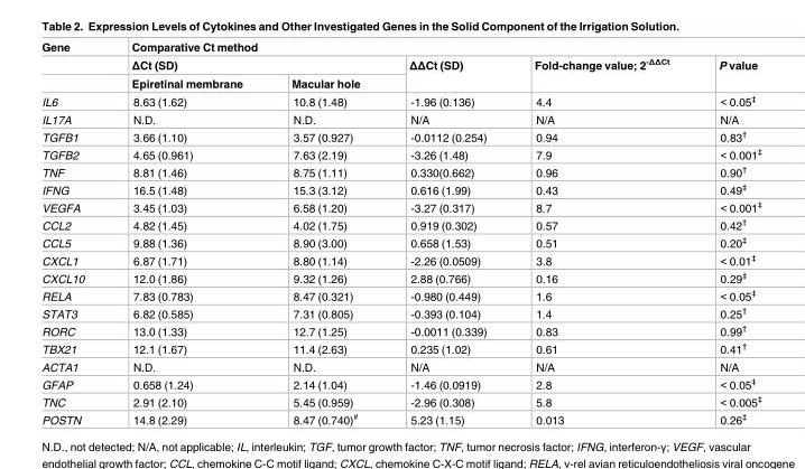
<table><thead><tr><td rowspan="3">Gene</td><td colspan="5">Comparative Ct method</td></tr><tr><td colspan="2">ΔCt (SD)</td><td rowspan="2">ΔΔCt (SD)</td><td rowspan="2">Fold-change value; 2<sup>-ΔΔCt</sup></td><td rowspan="2">P value</td></tr><tr><td>Epiretinal membrane</td><td>Macular hole</td></tr></thead><tbody><tr><td>IL6</td><td>8.63 (1.62)</td><td>10.8 (1.48)</td><td>-1.96 (0.136)</td><td>4.4</td><td>&lt; 0.05<sup>‡</sup></td></tr><tr><td>IL17A</td><td>N.D.</td><td>N.D.</td><td>N/A</td><td>N/A</td><td>N/A</td></tr><tr><td>TGFB1</td><td>3.66 (1.10)</td><td>3.57 (0.927)</td><td>-0.0112 (0.254)</td><td>0.94</td><td>0.83<sup>†</sup></td></tr><tr><td>TGFB2</td><td>4.65 (0.961)</td><td>7.63 (2.19)</td><td>-3.26 (1.48)</td><td>7.9</td><td>&lt; 0.001<sup>‡</sup></td></tr><tr><td>TNF</td><td>8.81 (1.46)</td><td>8.75 (1.11)</td><td>0.330(0.662)</td><td>0.96</td><td>0.90<sup>†</sup></td></tr><tr><td>IFNG</td><td>16.5 (1.48)</td><td>15.3 (3.12)</td><td>0.616 (1.99)</td><td>0.43</td><td>0.49<sup>‡</sup></td></tr><tr><td>VEGFA</td><td>3.45 (1.03)</td><td>6.58 (1.20)</td><td>-3.27 (0.317)</td><td>8.7</td><td>&lt; 0.001<sup>‡</sup></td></tr><tr><td>CCL2</td><td>4.82 (1.45)</td><td>4.02 (1.75)</td><td>0.919 (0.302)</td><td>0.57</td><td>0.42<sup>†</sup></td></tr><tr><td>CCL5</td><td>9.88 (1.36)</td><td>8.90 (3.00)</td><td>0.658 (1.53)</td><td>0.51</td><td>0.20<sup>‡</sup></td></tr><tr><td>CXCL1</td><td>6.87 (1.71)</td><td>8.80 (1.14)</td><td>-2.26 (0.0509)</td><td>3.8</td><td>&lt; 0.01<sup>‡</sup></td></tr><tr><td>CXCL10</td><td>12.0 (1.86)</td><td>9.32 (1.26)</td><td>2.88 (0.766)</td><td>0.16</td><td>0.29<sup>‡</sup></td></tr><tr><td>RELA</td><td>7.83 (0.783)</td><td>8.47 (0.321)</td><td>-0.980 (0.449)</td><td>1.6</td><td>&lt; 0.05<sup>‡</sup></td></tr><tr><td>STAT3</td><td>6.82 (0.585)</td><td>7.31 (0.805)</td><td>-0.393 (0.104)</td><td>1.4</td><td>0.25<sup>†</sup></td></tr><tr><td>RORC</td><td>13.0 (1.33)</td><td>12.7 (1.25)</td><td>-0.0011 (0.339)</td><td>0.83</td><td>0.99<sup>†</sup></td></tr><tr><td>TBX21</td><td>12.1 (1.67)</td><td>11.4 (2.63)</td><td>0.235 (1.02)</td><td>0.61</td><td>0.41<sup>†</sup></td></tr><tr><td>ACTA1</td><td>N.D.</td><td>N.D.</td><td>N/A</td><td>N/A</td><td>N/A</td></tr><tr><td>GFAP</td><td>0.658 (1.24)</td><td>2.14 (1.04)</td><td>-1.46 (0.0919)</td><td>2.8</td><td>&lt; 0.05<sup>‡</sup></td></tr><tr><td>TNC</td><td>2.91 (2.10)</td><td>5.45 (0.959)</td><td>-2.96 (0.308)</td><td>5.8</td><td>&lt; 0.005<sup>‡</sup></td></tr><tr><td>POSTN</td><td>14.8 (2.29)</td><td>8.47 (0.740)<sup>#</sup></td><td>5.23 (1.15)</td><td>0.013</td><td>0.26<sup>‡</sup></td></tr></tbody></table>